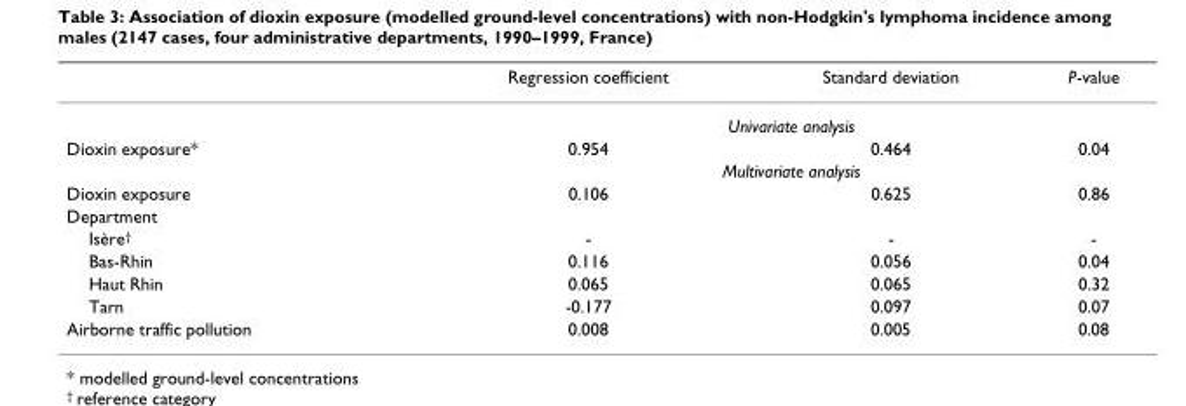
<table><thead><tr><td></td><td>Regression coefficient</td><td>Standard deviation</td><td>P-value</td></tr></thead><tbody><tr><td></td><td colspan="3">Univariate analysis</td></tr><tr><td rowspan="2">Dioxin exposure*</td><td>0.954</td><td>0.464</td><td>0.04</td></tr><tr><td colspan="3">Multivariate analysis</td></tr><tr><td>Dioxin exposure</td><td>0.106</td><td>0.625</td><td>0.86</td></tr><tr><td colspan="4">Department</td></tr><tr><td>Isère<sup>†</sup></td><td>-</td><td>-</td><td>-</td></tr><tr><td>Bas-Rhin</td><td>0.116</td><td>0.056</td><td>0.04</td></tr><tr><td>Haut Rhin</td><td>0.065</td><td>0.065</td><td>0.32</td></tr><tr><td>Tarn</td><td>-0.177</td><td>0.097</td><td>0.07</td></tr><tr><td>Airborne traffic pollution</td><td>0.008</td><td>0.005</td><td>0.08</td></tr></tbody></table>